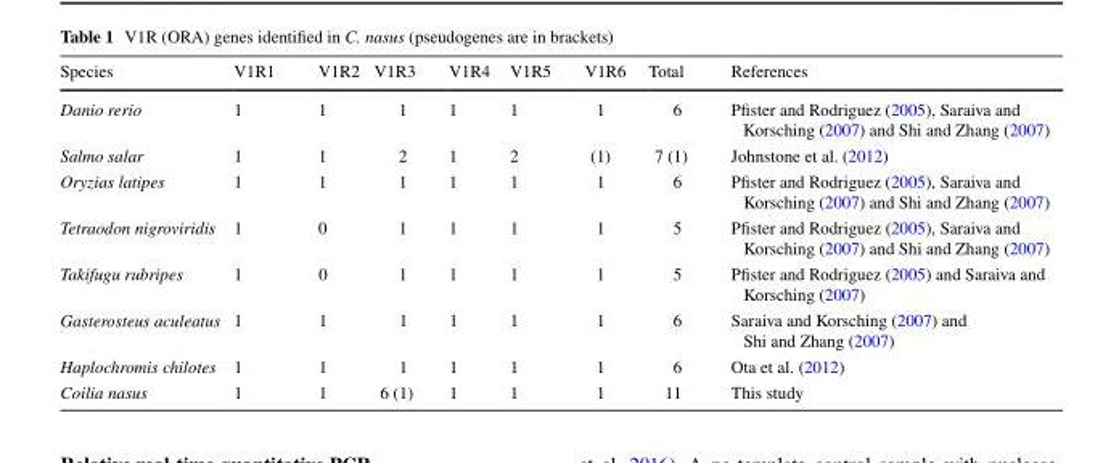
<table><thead><tr><td>Species</td><td>V1R1</td><td>V1R2</td><td>V1R3</td><td>V1R4</td><td>V1R5</td><td>V1R6</td><td>Total</td><td>References</td></tr></thead><tbody><tr><td>Danio rerio</td><td>1</td><td>1</td><td>1</td><td>1</td><td>1</td><td>1</td><td>6</td><td>Pfister and Rodriguez (2005), Saraiva and Korsching (2007) and Shi and Zhang (2007)</td></tr><tr><td>Salmo salar</td><td>1</td><td>1</td><td>2</td><td>1</td><td>2</td><td>(1)</td><td>7 (1)</td><td>Johnstone et al. (2012)</td></tr><tr><td>Oryzias latipes</td><td>1</td><td>1</td><td>1</td><td>1</td><td>1</td><td>1</td><td>6</td><td>Pfister and Rodriguez (2005), Saraiva and Korsching (2007) and Shi and Zhang (2007)</td></tr><tr><td>Tetraodon nigroviridis</td><td>1</td><td>0</td><td>1</td><td>1</td><td>1</td><td>1</td><td>5</td><td>Pfister and Rodriguez (2005), Saraiva and Korsching (2007) and Shi and Zhang (2007)</td></tr><tr><td>Takifugu rubripes</td><td>1</td><td>0</td><td>1</td><td>1</td><td>1</td><td>1</td><td>5</td><td>Pfister and Rodriguez (2005) and Saraiva and Korsching (2007)</td></tr><tr><td>Gasterosteus aculeatus</td><td>1</td><td>1</td><td>1</td><td>1</td><td>1</td><td>1</td><td>6</td><td>Saraiva and Korsching (2007) and Shi and Zhang (2007)</td></tr><tr><td>Haplochromis chilotes</td><td>1</td><td>1</td><td>1</td><td>1</td><td>1</td><td>1</td><td>6</td><td>Ota et al. (2012)</td></tr><tr><td>Coilia nasus</td><td>1</td><td>1</td><td>6 (1)</td><td>1</td><td>1</td><td>1</td><td>11</td><td>This study</td></tr></tbody></table>